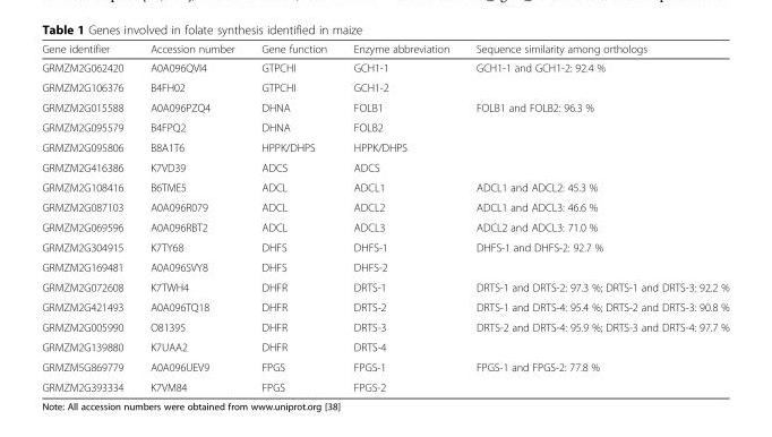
<table><thead><tr><td>Gene identifier</td><td>Accession number</td><td>Gene function</td><td>Enzyme abbreviation</td><td>Sequence similarity among orthologs</td></tr></thead><tbody><tr><td>GRMZM2G062420</td><td>A0A096QVI4</td><td>GTPCHI</td><td>GCH1-1</td><td rowspan="2">GCH1-1 and GCH1-2: 92.4 %</td></tr><tr><td>GRMZM2G106376</td><td>B4FH02</td><td>GTPCHI</td><td>GCH1-2</td></tr><tr><td>GRMZM2G015588</td><td>A0A096PZQ4</td><td>DHNA</td><td>FOLB1</td><td rowspan="2">FOLB1 and FOLB2: 96.3 %</td></tr><tr><td>GRMZM2G095579</td><td>B4FPQ2</td><td>DHNA</td><td>FOLB2</td></tr><tr><td>GRMZM2G095806</td><td>B8A1T6</td><td>HPPK/DHPS</td><td>HPPK/DHPS</td><td></td></tr><tr><td>GRMZM2G416386</td><td>K7VD39</td><td>ADCS</td><td>ADCS</td><td></td></tr><tr><td>GRMZM2G108416</td><td>B6TME5</td><td>ADCL</td><td>ADCL1</td><td>ADCL1 and ADCL2: 45.3 %</td></tr><tr><td>GRMZM2G087103</td><td>A0A096R079</td><td>ADCL</td><td>ADCL2</td><td>ADCL1 and ADCL3: 46.6 %</td></tr><tr><td>GRMZM2G069596</td><td>A0A096RBT2</td><td>ADCL</td><td>ADCL3</td><td>ADCL2 and ADCL3: 71.0 %</td></tr><tr><td>GRMZM2G304915</td><td>K7TY68</td><td>DHFS</td><td>DHFS-1</td><td rowspan="2">DHFS-1 and DHFS-2: 92.7 %</td></tr><tr><td>GRMZM2G169481</td><td>A0A096SVY8</td><td>DHFS</td><td>DHFS-2</td></tr><tr><td>GRMZM2G072608</td><td>K7TWH4</td><td>DHFR</td><td>DRTS-1</td><td>DRTS-1 and DRTS-2: 97.3 %; DRTS-1 and DRTS-3: 92.2 %</td></tr><tr><td>GRMZM2G421493</td><td>A0A096TQ18</td><td>DHFR</td><td>DRTS-2</td><td>DRTS-1 and DRTS-4: 95.4 %; DRTS-2 and DRTS-3: 90.8 %</td></tr><tr><td>GRMZM2G005990</td><td>O81395</td><td>DHFR</td><td>DRTS-3</td><td rowspan="2">DRTS-2 and DRTS-4: 95.9 %; DRTS-3 and DRTS-4: 97.7 %</td></tr><tr><td>GRMZM2G139880</td><td>K7UAA2</td><td>DHFR</td><td>DRTS-4</td></tr><tr><td>GRMZM5G869779</td><td>A0A096UEV9</td><td>FPGS</td><td>FPGS-1</td><td rowspan="2">FPGS-1 and FPGS-2: 77.8 %</td></tr><tr><td>GRMZM2G393334</td><td>K7VM84</td><td>FPGS</td><td>FPGS-2</td></tr></tbody></table>